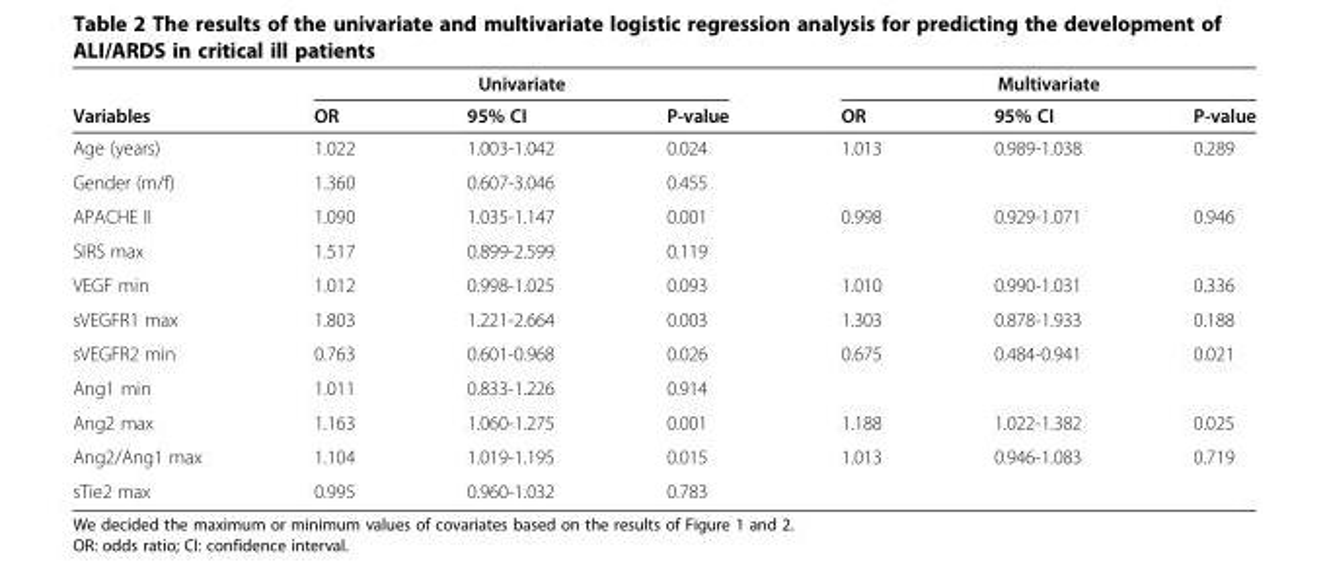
<table><thead><tr><td rowspan="2">Variables</td><td colspan="3">Univariate</td><td colspan="3">Multivariate</td></tr><tr><td>OR</td><td>95% CI</td><td>P-value</td><td>OR</td><td>95% CI</td><td>P-value</td></tr></thead><tbody><tr><td>Age (years)</td><td>1.022</td><td>1.003-1.042</td><td>0.024</td><td>1.013</td><td>0.989-1.038</td><td>0.289</td></tr><tr><td>Gender (m/f)</td><td>1.360</td><td>0.607-3.046</td><td>0.455</td><td></td><td></td><td></td></tr><tr><td>APACHE II</td><td>1.090</td><td>1.035-1.147</td><td>0.001</td><td>0.998</td><td>0.929-1.071</td><td>0.946</td></tr><tr><td>SIRS max</td><td>1.517</td><td>0.899-2.599</td><td>0.119</td><td></td><td></td><td></td></tr><tr><td>VEGF min</td><td>1.012</td><td>0.998-1.025</td><td>0.093</td><td>1.010</td><td>0.990-1.031</td><td>0.336</td></tr><tr><td>sVEGFR1 max</td><td>1.803</td><td>1.221-2.664</td><td>0.003</td><td>1.303</td><td>0.878-1.933</td><td>0.188</td></tr><tr><td>sVEGFR2 min</td><td>0.763</td><td>0.601-0.968</td><td>0.026</td><td>0.675</td><td>0.484-0.941</td><td>0.021</td></tr><tr><td>Ang1 min</td><td>1.011</td><td>0.833-1.226</td><td>0.914</td><td></td><td></td><td></td></tr><tr><td>Ang2 max</td><td>1.163</td><td>1.060-1.275</td><td>0.001</td><td>1.188</td><td>1.022-1.382</td><td>0.025</td></tr><tr><td>Ang2/Ang1 max</td><td>1.104</td><td>1.019-1.195</td><td>0.015</td><td>1.013</td><td>0.946-1.083</td><td>0.719</td></tr><tr><td>sTie2 max</td><td>0.995</td><td>0.960-1.032</td><td>0.783</td><td></td><td></td><td></td></tr></tbody></table>